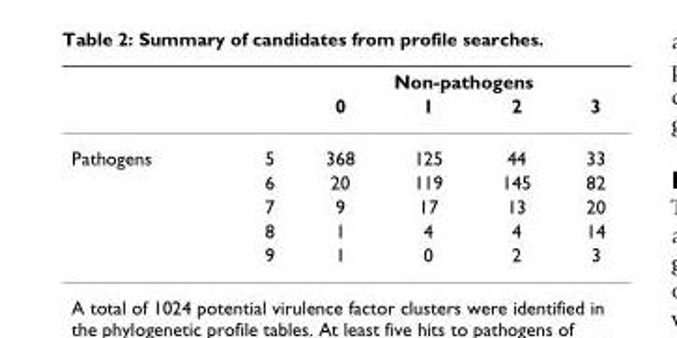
<table><thead><tr><td rowspan="2"></td><td rowspan="2"></td><td colspan="4">Non-pathogens</td></tr><tr><td>0</td><td>1</td><td>2</td><td>3</td></tr></thead><tbody><tr><td rowspan="5">Pathogens</td><td>5</td><td>368</td><td>125</td><td>44</td><td>33</td></tr><tr><td>6</td><td>20</td><td>119</td><td>145</td><td>82</td></tr><tr><td>7</td><td>9</td><td>17</td><td>13</td><td>20</td></tr><tr><td>8</td><td>1</td><td>4</td><td>4</td><td>14</td></tr><tr><td>9</td><td>1</td><td>0</td><td>2</td><td>3</td></tr></tbody></table>